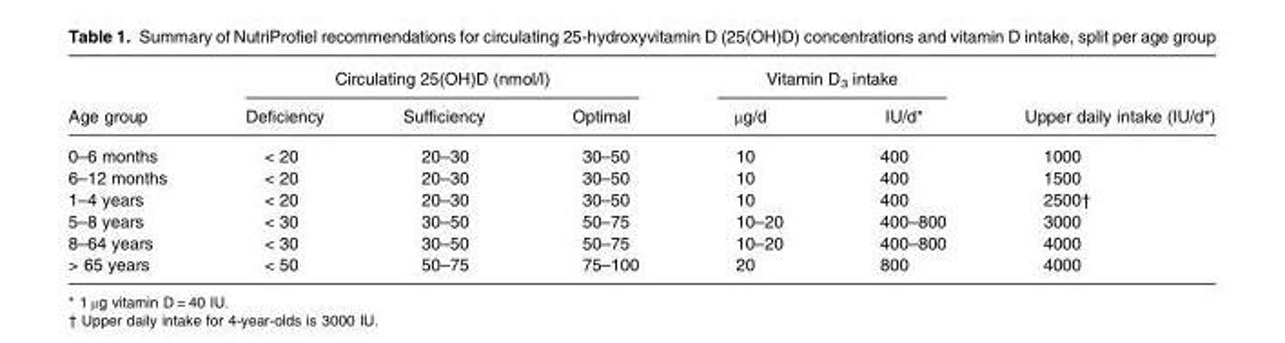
<table><thead><tr><td rowspan="2">Age group</td><td colspan="3">Circulating 25(OH)D (nmol/l)</td><td colspan="2">Vitamin D<sub>3</sub> intake</td><td rowspan="2">Upper daily intake (IU/d*)</td></tr><tr><td>Deficiency</td><td>Sufficiency</td><td>Optimal</td><td>μg/d</td><td>IU/d*</td></tr></thead><tbody><tr><td>0–6 months</td><td>&lt; 20</td><td>20–30</td><td>30–50</td><td>10</td><td>400</td><td>1000</td></tr><tr><td>6–12 months</td><td>&lt; 20</td><td>20–30</td><td>30–50</td><td>10</td><td>400</td><td>1500</td></tr><tr><td>1–4 years</td><td>&lt; 20</td><td>20–30</td><td>30–50</td><td>10</td><td>400</td><td>2500†</td></tr><tr><td>5–8 years</td><td>&lt; 30</td><td>30–50</td><td>50–75</td><td>10–20</td><td>400–800</td><td>3000</td></tr><tr><td>8–64 years</td><td>&lt; 30</td><td>30–50</td><td>50–75</td><td>10–20</td><td>400–800</td><td>4000</td></tr><tr><td>&gt; 65 years</td><td>&lt; 50</td><td>50–75</td><td>75–100</td><td>20</td><td>800</td><td>4000</td></tr></tbody></table>